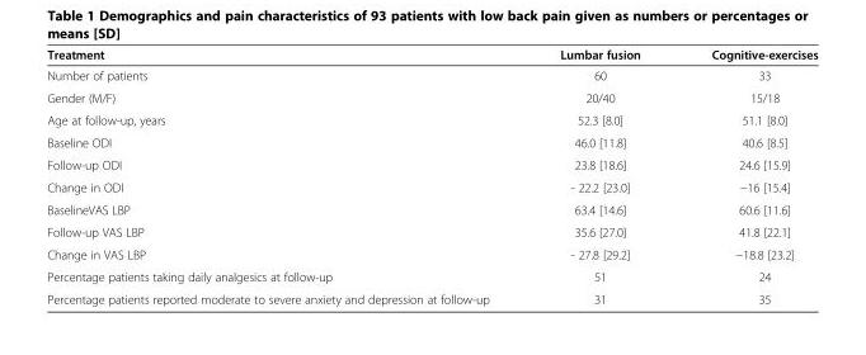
<table><thead><tr><td>Treatment</td><td>Lumbar fusion</td><td>Cognitive-exercises</td></tr></thead><tbody><tr><td>Number of patients</td><td>60</td><td>33</td></tr><tr><td>Gender (M/F)</td><td>20/40</td><td>15/18</td></tr><tr><td>Age at follow-up, years</td><td>52.3 [8.0]</td><td>51.1 [8.0]</td></tr><tr><td>Baseline ODI</td><td>46.0 [11.8]</td><td>40.6 [8.5]</td></tr><tr><td>Follow-up ODI</td><td>23.8 [18.6]</td><td>24.6 [15.9]</td></tr><tr><td>Change in ODI</td><td>- 22.2 [23.0]</td><td>−16 [15.4]</td></tr><tr><td>BaselineVAS LBP</td><td>63.4 [14.6]</td><td>60.6 [11.6]</td></tr><tr><td>Follow-up VAS LBP</td><td>35.6 [27.0]</td><td>41.8 [22.1]</td></tr><tr><td>Change in VAS LBP</td><td>- 27.8 [29.2]</td><td>−18.8 [23.2]</td></tr><tr><td>Percentage patients taking daily analgesics at follow-up</td><td>51</td><td>24</td></tr><tr><td>Percentage patients reported moderate to severe anxiety and depression at follow-up</td><td>31</td><td>35</td></tr></tbody></table>